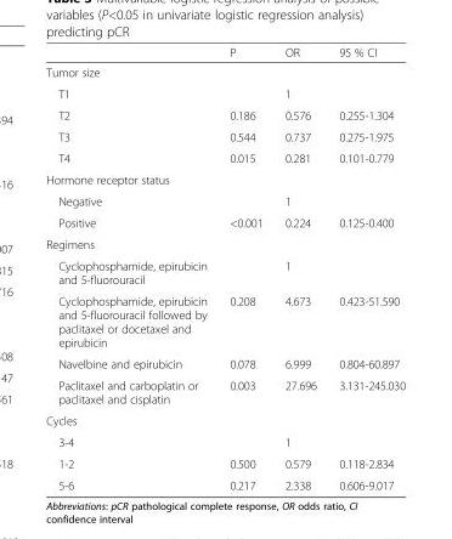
<table><thead><tr><td></td><td>P</td><td>OR</td><td>95 % CI</td></tr></thead><tbody><tr><td colspan="4">Tumor size</td></tr><tr><td>T1</td><td></td><td>1</td><td></td></tr><tr><td>T2</td><td>0.186</td><td>0.576</td><td>0.255-1.304</td></tr><tr><td>T3</td><td>0.544</td><td>0.737</td><td>0.275-1.975</td></tr><tr><td>T4</td><td>0.015</td><td>0.281</td><td>0.101-0.779</td></tr><tr><td colspan="4">Hormone receptor status</td></tr><tr><td>Negative</td><td></td><td>1</td><td></td></tr><tr><td>Positive</td><td>&lt;0.001</td><td>0.224</td><td>0.125-0.400</td></tr><tr><td colspan="4">Regimens</td></tr><tr><td>Cyclophosphamide, epirubicin and 5-fluorouracil</td><td></td><td>1</td><td></td></tr><tr><td>Cyclophosphamide, epirubicin and 5-fluorouracil followed by paclitaxel or docetaxel and epirubicin</td><td>0.208</td><td>4.673</td><td>0.423-51.590</td></tr><tr><td>Navelbine and epirubicin</td><td>0.078</td><td>6.999</td><td>0.804-60.897</td></tr><tr><td>Paclitaxel and carboplatin or paclitaxel and cisplatin</td><td>0.003</td><td>27.696</td><td>3.131-245.030</td></tr><tr><td colspan="4">Cycles</td></tr><tr><td>3-4</td><td></td><td>1</td><td></td></tr><tr><td>1-2</td><td>0.500</td><td>0.579</td><td>0.118-2.834</td></tr><tr><td>5-6</td><td>0.217</td><td>2.338</td><td>0.606-9.017</td></tr></tbody></table>